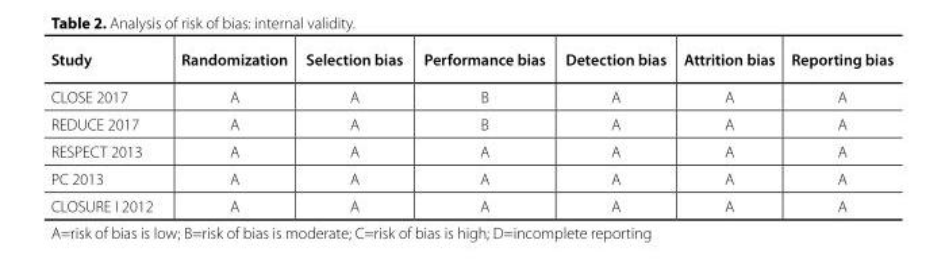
<table><thead><tr><td>Study</td><td>Randomization</td><td>Selection bias</td><td>Performance bias</td><td>Detection bias</td><td>Attrition bias</td><td>Reporting bias</td></tr></thead><tbody><tr><td>CLOSE 2017</td><td>A</td><td>A</td><td>B</td><td>A</td><td>A</td><td>A</td></tr><tr><td>REDUCE 2017</td><td>A</td><td>A</td><td>B</td><td>A</td><td>A</td><td>A</td></tr><tr><td>RESPECT 2013</td><td>A</td><td>A</td><td>A</td><td>A</td><td>A</td><td>A</td></tr><tr><td>PC 2013</td><td>A</td><td>A</td><td>A</td><td>A</td><td>A</td><td>A</td></tr><tr><td>CLOSURE I 2012</td><td>A</td><td>A</td><td>A</td><td>A</td><td>A</td><td>A</td></tr></tbody></table>